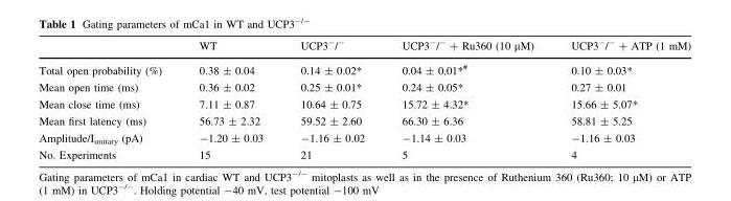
<table><thead><tr><td></td><td>WT</td><td>UCP3<sup>-</sup>/<sup>-</sup></td><td>UCP3<sup>-</sup>/<sup>-</sup> + Ru360 (10 µM)</td><td>UCP3<sup>-</sup>/<sup>-</sup> + ATP (1 mM)</td></tr></thead><tbody><tr><td>Total open probability (%)</td><td>0.38 ± 0.04</td><td>0.14 ± 0.02*</td><td>0.04 ± 0.01*<sup>#</sup></td><td>0.10 ± 0.03*</td></tr><tr><td>Mean open time (ms)</td><td>0.36 ± 0.02</td><td>0.25 ± 0.01*</td><td>0.24 ± 0.05*</td><td>0.27 ± 0.01</td></tr><tr><td>Mean close time (ms)</td><td>7.11 ± 0.87</td><td>10.64 ± 0.75</td><td>15.72 ± 4.32*</td><td>15.66 ± 5.07*</td></tr><tr><td>Mean first latency (ms)</td><td>56.73 ± 2.32</td><td>59.52 ± 2.60</td><td>66.30 ± 6.36</td><td>58.81 ± 5.25</td></tr><tr><td>Amplitude/I<sub>unitary</sub> (pA)</td><td>-1.20 ± 0.03</td><td>-1.16 ± 0.02</td><td>-1.14 ± 0.03</td><td>-1.16 ± 0.03</td></tr><tr><td>No. Experiments</td><td>15</td><td>21</td><td>5</td><td>4</td></tr></tbody></table>